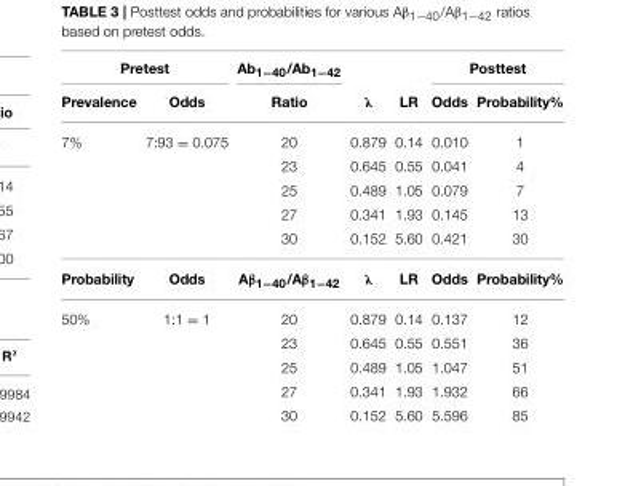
<table><thead><tr><td colspan="2">Pretest</td><td rowspan="2">Ab<sub>1−40</sub>/Ab<sub>1−42</sub> Ratio</td><td rowspan="2">λ</td><td rowspan="2">LR</td><td colspan="2">Posttest</td></tr><tr><td>Prevalence</td><td>Odds</td><td>Odds</td><td>Probability%</td></tr></thead><tbody><tr><td rowspan="5">7%</td><td>7:93 = 0.075</td><td>20</td><td>0.879</td><td>0.14</td><td>0.010</td><td>1</td></tr><tr><td></td><td>23</td><td>0.645</td><td>0.55</td><td>0.041</td><td>4</td></tr><tr><td></td><td>25</td><td>0.489</td><td>1.05</td><td>0.079</td><td>7</td></tr><tr><td></td><td>27</td><td>0.341</td><td>1.93</td><td>0.145</td><td>13</td></tr><tr><td></td><td>30</td><td>0.152</td><td>5.60</td><td>0.421</td><td>30</td></tr><tr><td>Probability</td><td>Odds</td><td>Aβ<sub>1−40</sub>/Aβ<sub>1−42</sub></td><td>λ</td><td>LR</td><td>Odds</td><td>Probability%</td></tr><tr><td rowspan="5">50%</td><td>1:1 = 1</td><td>20</td><td>0.879</td><td>0.14</td><td>0.137</td><td>12</td></tr><tr><td></td><td>23</td><td>0.645</td><td>0.55</td><td>0.551</td><td>36</td></tr><tr><td></td><td>25</td><td>0.489</td><td>1.05</td><td>1.047</td><td>51</td></tr><tr><td></td><td>27</td><td>0.341</td><td>1.93</td><td>1.932</td><td>66</td></tr><tr><td></td><td>30</td><td>0.152</td><td>5.60</td><td>5.596</td><td>85</td></tr></tbody></table>